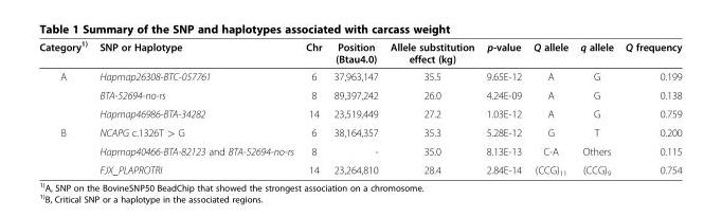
<table><thead><tr><td>Category<sup>1)</sup></td><td>SNP or Haplotype</td><td>Chr</td><td>Position (Btau4.0)</td><td>Allele substitution effect (kg)</td><td>p-value</td><td>Q allele</td><td>q allele</td><td>Q frequency</td></tr></thead><tbody><tr><td rowspan="3">A</td><td>Hapmap26308-BTC-057761</td><td>6</td><td>37,963,147</td><td>35.5</td><td>9.65E-12</td><td>A</td><td>G</td><td>0.199</td></tr><tr><td>BTA-52694-no-rs</td><td>8</td><td>89,397,242</td><td>26.0</td><td>4.24E-09</td><td>A</td><td>G</td><td>0.138</td></tr><tr><td>Hapmap46986-BTA-34282</td><td>14</td><td>23,519,449</td><td>27.2</td><td>1.03E-12</td><td>A</td><td>G</td><td>0.759</td></tr><tr><td rowspan="3">B</td><td>NCAPG c.1326T &gt; G</td><td>6</td><td>38,164,357</td><td>35.3</td><td>5.28E-12</td><td>G</td><td>T</td><td>0.200</td></tr><tr><td>Hapmap40466-BTA-82123 and BTA-52694-no-rs</td><td>8</td><td>-</td><td>35.0</td><td>8.13E-13</td><td>C-A</td><td>Others</td><td>0.115</td></tr><tr><td>FJX_PLAPROTRI</td><td>14</td><td>23,264,810</td><td>28.4</td><td>2.84E-14</td><td>(CCG)<sub>11</sub></td><td>(CCG)<sub>9</sub></td><td>0.754</td></tr></tbody></table>